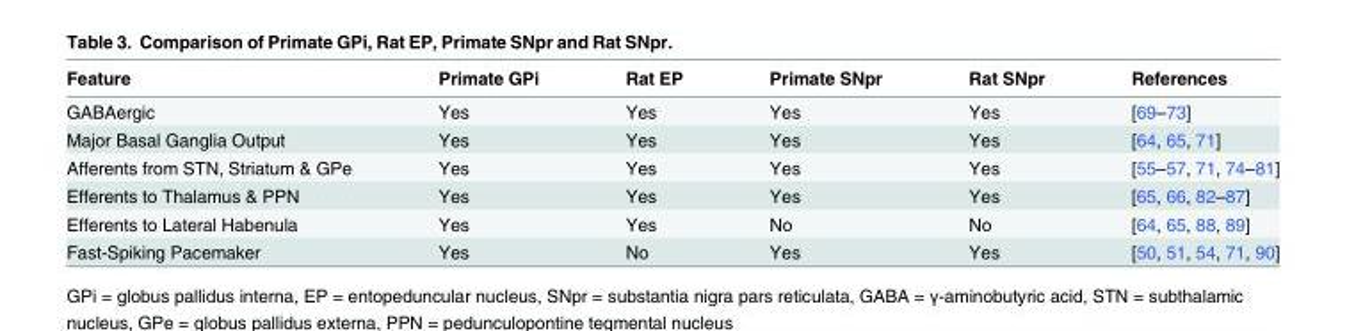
<table><thead><tr><td>Feature</td><td>Primate GPi</td><td>Rat EP</td><td>Primate SNpr</td><td>Rat SNpr</td><td>References</td></tr></thead><tbody><tr><td>GABAergic</td><td>Yes</td><td>Yes</td><td>Yes</td><td>Yes</td><td>[69–73]</td></tr><tr><td>Major Basal Ganglia Output</td><td>Yes</td><td>Yes</td><td>Yes</td><td>Yes</td><td>[64, 65, 71]</td></tr><tr><td>Afferents from STN, Striatum &amp; GPe</td><td>Yes</td><td>Yes</td><td>Yes</td><td>Yes</td><td>[55–57, 71, 74–81]</td></tr><tr><td>Efferents to Thalamus &amp; PPN</td><td>Yes</td><td>Yes</td><td>Yes</td><td>Yes</td><td>[65, 66, 82–87]</td></tr><tr><td>Efferents to Lateral Habenula</td><td>Yes</td><td>Yes</td><td>No</td><td>No</td><td>[64, 65, 88, 89]</td></tr><tr><td>Fast-Spiking Pacemaker</td><td>Yes</td><td>No</td><td>Yes</td><td>Yes</td><td>[50, 51, 54, 71, 90]</td></tr></tbody></table>